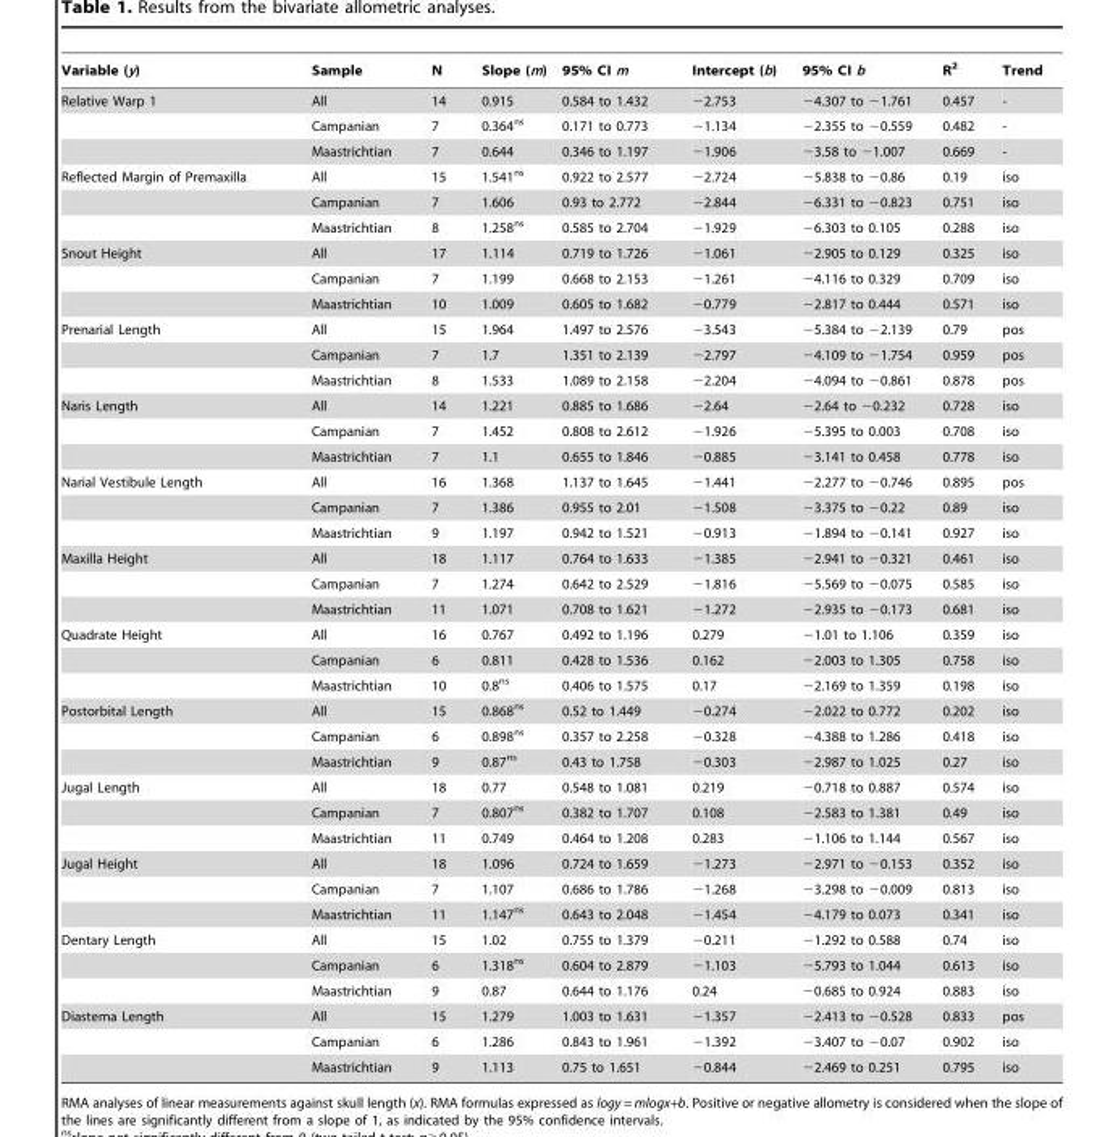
<table><thead><tr><td>Variable (y)</td><td>Sample</td><td>N</td><td>Slope (m)</td><td>95% CI m</td><td>Intercept (b)</td><td>95% CI b</td><td>R<sup>2</sup></td><td>Trend</td></tr></thead><tbody><tr><td rowspan="3">Relative Warp 1</td><td>All</td><td>14</td><td>0.915</td><td>0.584 to 1.432</td><td>−2.753</td><td>−4.307 to −1.761</td><td>0.457</td><td>-</td></tr><tr><td>Campanian</td><td>7</td><td>0.364<sup>ns</sup></td><td>0.171 to 0.773</td><td>−1.134</td><td>−2.355 to −0.559</td><td>0.482</td><td>-</td></tr><tr><td>Maastrichtian</td><td>7</td><td>0.644</td><td>0.346 to 1.197</td><td>−1.906</td><td>−3.58 to −1.007</td><td>0.669</td><td>-</td></tr><tr><td rowspan="3">Reflected Margin of Premaxilla</td><td>All</td><td>15</td><td>1.541<sup>ns</sup></td><td>0.922 to 2.577</td><td>−2.724</td><td>−5.838 to −0.86</td><td>0.19</td><td>iso</td></tr><tr><td>Campanian</td><td>7</td><td>1.606</td><td>0.93 to 2.772</td><td>−2.844</td><td>−6.331 to −0.823</td><td>0.751</td><td>iso</td></tr><tr><td>Maastrichtian</td><td>8</td><td>1.258<sup>ns</sup></td><td>0.585 to 2.704</td><td>−1.929</td><td>−6.303 to 0.105</td><td>0.288</td><td>iso</td></tr><tr><td rowspan="3">Snout Height</td><td>All</td><td>17</td><td>1.114</td><td>0.719 to 1.726</td><td>−1.061</td><td>−2.905 to 0.129</td><td>0.325</td><td>iso</td></tr><tr><td>Campanian</td><td>7</td><td>1.199</td><td>0.668 to 2.153</td><td>−1.261</td><td>−4.116 to 0.329</td><td>0.709</td><td>iso</td></tr><tr><td>Maastrichtian</td><td>10</td><td>1.009</td><td>0.605 to 1.682</td><td>−0.779</td><td>−2.817 to 0.444</td><td>0.571</td><td>iso</td></tr><tr><td rowspan="3">Prenarial Length</td><td>All</td><td>15</td><td>1.964</td><td>1.497 to 2.576</td><td>−3.543</td><td>−5.384 to −2.139</td><td>0.79</td><td>pos</td></tr><tr><td>Campanian</td><td>7</td><td>1.7</td><td>1.351 to 2.139</td><td>−2.797</td><td>−4.109 to −1.754</td><td>0.959</td><td>pos</td></tr><tr><td>Maastrichtian</td><td>8</td><td>1.533</td><td>1.089 to 2.158</td><td>−2.204</td><td>−4.094 to −0.861</td><td>0.878</td><td>pos</td></tr><tr><td rowspan="3">Naris Length</td><td>All</td><td>14</td><td>1.221</td><td>0.885 to 1.686</td><td>−2.64</td><td>−2.64 to −0.232</td><td>0.728</td><td>iso</td></tr><tr><td>Campanian</td><td>7</td><td>1.452</td><td>0.808 to 2.612</td><td>−1.926</td><td>−5.395 to 0.003</td><td>0.708</td><td>iso</td></tr><tr><td>Maastrichtian</td><td>7</td><td>1.1</td><td>0.655 to 1.846</td><td>−0.885</td><td>−3.141 to 0.458</td><td>0.778</td><td>iso</td></tr><tr><td rowspan="3">Narial Vestibule Length</td><td>All</td><td>16</td><td>1.368</td><td>1.137 to 1.645</td><td>−1.441</td><td>−2.277 to −0.746</td><td>0.895</td><td>pos</td></tr><tr><td>Campanian</td><td>7</td><td>1.386</td><td>0.955 to 2.01</td><td>−1.508</td><td>−3.375 to −0.22</td><td>0.89</td><td>iso</td></tr><tr><td>Maastrichtian</td><td>9</td><td>1.197</td><td>0.942 to 1.521</td><td>−0.913</td><td>−1.894 to −0.141</td><td>0.927</td><td>iso</td></tr><tr><td rowspan="3">Maxilla Height</td><td>All</td><td>18</td><td>1.117</td><td>0.764 to 1.633</td><td>−1.385</td><td>−2.941 to −0.321</td><td>0.461</td><td>iso</td></tr><tr><td>Campanian</td><td>7</td><td>1.274</td><td>0.642 to 2.529</td><td>−1.816</td><td>−5.569 to −0.075</td><td>0.585</td><td>iso</td></tr><tr><td>Maastrichtian</td><td>11</td><td>1.071</td><td>0.708 to 1.621</td><td>−1.272</td><td>−2.935 to −0.173</td><td>0.681</td><td>iso</td></tr><tr><td rowspan="3">Quadrate Height</td><td>All</td><td>16</td><td>0.767</td><td>0.492 to 1.196</td><td>0.279</td><td>−1.01 to 1.106</td><td>0.359</td><td>iso</td></tr><tr><td>Campanian</td><td>6</td><td>0.811</td><td>0.428 to 1.536</td><td>0.162</td><td>−2.003 to 1.305</td><td>0.758</td><td>iso</td></tr><tr><td>Maastrichtian</td><td>10</td><td>0.8<sup>ns</sup></td><td>0.406 to 1.575</td><td>0.17</td><td>−2.169 to 1.359</td><td>0.198</td><td>iso</td></tr><tr><td rowspan="3">Postorbital Length</td><td>All</td><td>15</td><td>0.868<sup>ns</sup></td><td>0.52 to 1.449</td><td>−0.274</td><td>−2.022 to 0.772</td><td>0.202</td><td>iso</td></tr><tr><td>Campanian</td><td>6</td><td>0.898<sup>ns</sup></td><td>0.357 to 2.258</td><td>−0.328</td><td>−4.388 to 1.286</td><td>0.418</td><td>iso</td></tr><tr><td>Maastrichtian</td><td>9</td><td>0.87<sup>ns</sup></td><td>0.43 to 1.758</td><td>−0.303</td><td>−2.987 to 1.025</td><td>0.27</td><td>iso</td></tr><tr><td rowspan="3">Jugal Length</td><td>All</td><td>18</td><td>0.77</td><td>0.548 to 1.081</td><td>0.219</td><td>−0.718 to 0.887</td><td>0.574</td><td>iso</td></tr><tr><td>Campanian</td><td>7</td><td>0.807<sup>ns</sup></td><td>0.382 to 1.707</td><td>0.108</td><td>−2.583 to 1.381</td><td>0.49</td><td>iso</td></tr><tr><td>Maastrichtian</td><td>11</td><td>0.749</td><td>0.464 to 1.208</td><td>0.283</td><td>−1.106 to 1.144</td><td>0.567</td><td>iso</td></tr><tr><td rowspan="3">Jugal Height</td><td>All</td><td>18</td><td>1.096</td><td>0.724 to 1.659</td><td>−1.273</td><td>−2.971 to −0.153</td><td>0.352</td><td>iso</td></tr><tr><td>Campanian</td><td>7</td><td>1.107</td><td>0.686 to 1.786</td><td>−1.268</td><td>−3.298 to −0.009</td><td>0.813</td><td>iso</td></tr><tr><td>Maastrichtian</td><td>11</td><td>1.147<sup>ns</sup></td><td>0.643 to 2.048</td><td>−1.454</td><td>−4.179 to 0.073</td><td>0.341</td><td>iso</td></tr><tr><td rowspan="3">Dentary Length</td><td>All</td><td>15</td><td>1.02</td><td>0.755 to 1.379</td><td>−0.211</td><td>−1.292 to 0.588</td><td>0.74</td><td>iso</td></tr><tr><td>Campanian</td><td>6</td><td>1.318<sup>ns</sup></td><td>0.604 to 2.879</td><td>−1.103</td><td>−5.793 to 1.044</td><td>0.613</td><td>iso</td></tr><tr><td>Maastrichtian</td><td>9</td><td>0.87</td><td>0.644 to 1.176</td><td>0.24</td><td>−0.685 to 0.924</td><td>0.883</td><td>iso</td></tr><tr><td rowspan="3">Diastema Length</td><td>All</td><td>15</td><td>1.279</td><td>1.003 to 1.631</td><td>−1.357</td><td>−2.413 to −0.528</td><td>0.833</td><td>pos</td></tr><tr><td>Campanian</td><td>6</td><td>1.286</td><td>0.843 to 1.961</td><td>−1.392</td><td>−3.407 to −0.07</td><td>0.902</td><td>iso</td></tr><tr><td>Maastrichtian</td><td>9</td><td>1.113</td><td>0.75 to 1.651</td><td>−0.844</td><td>−2.469 to 0.251</td><td>0.795</td><td>iso</td></tr></tbody></table>